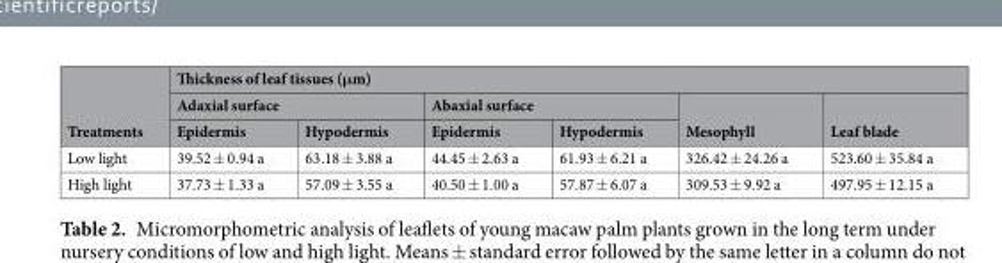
<table><thead><tr><td rowspan="3">Treatments</td><td colspan="6">Thickness of leaf tissues (μm)</td></tr><tr><td colspan="2">Adaxial surface</td><td colspan="2">Abaxial surface</td><td rowspan="2">Mesophyll</td><td rowspan="2">Leaf blade</td></tr><tr><td>Epidermis</td><td>Hypodermis</td><td>Epidermis</td><td>Hypodermis</td></tr></thead><tbody><tr><td>Low light</td><td>39.52 ± 0.94 a</td><td>63.18 ± 3.88 a</td><td>44.45 ± 2.63 a</td><td>61.93 ± 6.21 a</td><td>326.42 ± 24.26 a</td><td>523.60 ± 35.84 a</td></tr><tr><td>High light</td><td>37.73 ± 1.33 a</td><td>57.09 ± 3.55 a</td><td>40.50 ± 1.00 a</td><td>57.87 ± 6.07 a</td><td>309.53 ± 9.92 a</td><td>497.95 ± 12.15 a</td></tr></tbody></table>